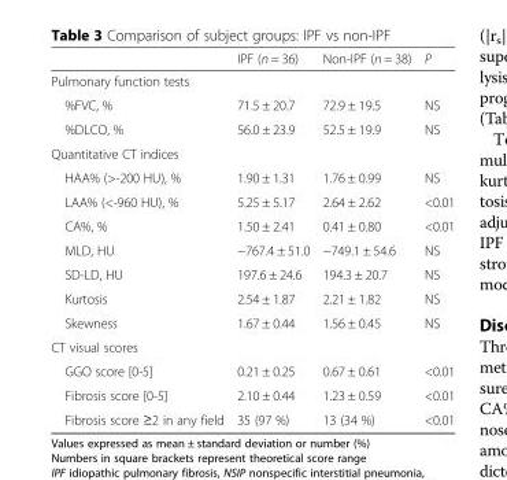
<table><thead><tr><td></td><td>IPF (n = 36)</td><td>Non-IPF (n = 38)</td><td>P</td></tr></thead><tbody><tr><td colspan="4">Pulmonary function tests</td></tr><tr><td>%FVC, %</td><td>71.5 ± 20.7</td><td>72.9 ± 19.5</td><td>NS</td></tr><tr><td>%DLCO, %</td><td>56.0 ± 23.9</td><td>52.5 ± 19.9</td><td>NS</td></tr><tr><td colspan="4">Quantitative CT indices</td></tr><tr><td>HAA% (&gt;-200 HU), %</td><td>1.90 ± 1.31</td><td>1.76 ± 0.99</td><td>NS</td></tr><tr><td>LAA% (&lt;-960 HU), %</td><td>5.25 ± 5.17</td><td>2.64 ± 2.62</td><td>&lt;0.01</td></tr><tr><td>CA%, %</td><td>1.50 ± 2.41</td><td>0.41 ± 0.80</td><td>&lt;0.01</td></tr><tr><td>MLD, HU</td><td>−767.4 ± 51.0</td><td>−749.1 ± 54.6</td><td>NS</td></tr><tr><td>SD-LD, HU</td><td>197.6 ± 24.6</td><td>194.3 ± 20.7</td><td>NS</td></tr><tr><td>Kurtosis</td><td>2.54 ± 1.87</td><td>2.21 ± 1.82</td><td>NS</td></tr><tr><td>Skewness</td><td>1.67 ± 0.44</td><td>1.56 ± 0.45</td><td>NS</td></tr><tr><td colspan="4">CT visual scores</td></tr><tr><td>GGO score [0-5]</td><td>0.21 ± 0.25</td><td>0.67 ± 0.61</td><td>&lt;0.01</td></tr><tr><td>Fibrosis score [0-5]</td><td>2.10 ± 0.44</td><td>1.23 ± 0.59</td><td>&lt;0.01</td></tr><tr><td>Fibrosis score ≥2 in any field</td><td>35 (97 %)</td><td>13 (34 %)</td><td>&lt;0.01</td></tr></tbody></table>